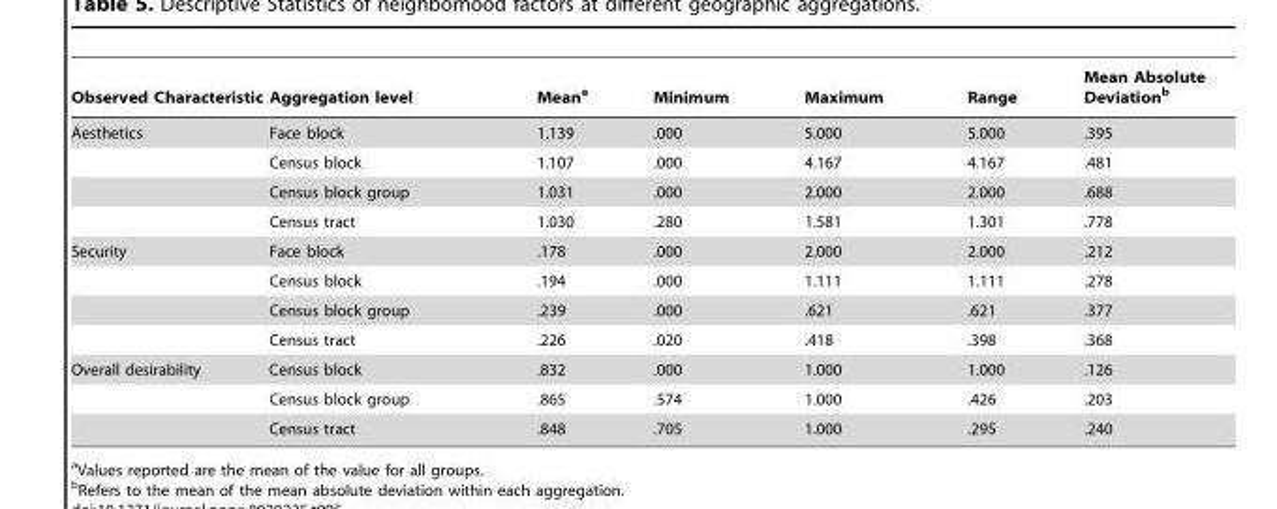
<table><thead><tr><td>Observed Characteristic</td><td>Aggregation level</td><td>Mean<sup>a</sup></td><td>Minimum</td><td>Maximum</td><td>Range</td><td>Mean Absolute Deviation<sup>b</sup></td></tr></thead><tbody><tr><td rowspan="4">Aesthetics</td><td>Face block</td><td>1.139</td><td>.000</td><td>5.000</td><td>5.000</td><td>.395</td></tr><tr><td>Census block</td><td>1.107</td><td>.000</td><td>4.167</td><td>4.167</td><td>.481</td></tr><tr><td>Census block group</td><td>1.031</td><td>.000</td><td>2.000</td><td>2.000</td><td>.688</td></tr><tr><td>Census tract</td><td>1.030</td><td>.280</td><td>1.581</td><td>1.301</td><td>.778</td></tr><tr><td rowspan="4">Security</td><td>Face block</td><td>.178</td><td>.000</td><td>2.000</td><td>2.000</td><td>.212</td></tr><tr><td>Census block</td><td>.194</td><td>.000</td><td>1.111</td><td>1.111</td><td>.278</td></tr><tr><td>Census block group</td><td>.239</td><td>.000</td><td>.621</td><td>.621</td><td>.377</td></tr><tr><td>Census tract</td><td>.226</td><td>.020</td><td>.418</td><td>.398</td><td>.368</td></tr><tr><td rowspan="3">Overall desirability</td><td>Census block</td><td>.832</td><td>.000</td><td>1.000</td><td>1.000</td><td>.126</td></tr><tr><td>Census block group</td><td>.865</td><td>.574</td><td>1.000</td><td>.426</td><td>.203</td></tr><tr><td>Census tract</td><td>.848</td><td>.705</td><td>1.000</td><td>.295</td><td>.240</td></tr></tbody></table>